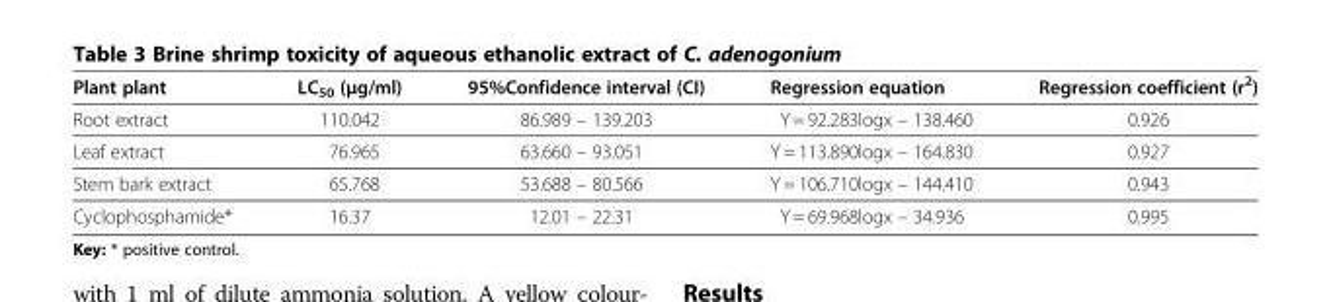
<table><thead><tr><td>Plant plant</td><td>LC<sub>50</sub> (μg/ml)</td><td>95%Confidence interval (CI)</td><td>Regression equation</td><td>Regression coefficient (r<sup>2</sup>)</td></tr></thead><tbody><tr><td>Root extract</td><td>110.042</td><td>86.989 – 139.203</td><td>Y = 92.283logx – 138.460</td><td>0.926</td></tr><tr><td>Leaf extract</td><td>76.965</td><td>63.660 – 93.051</td><td>Y = 113.890logx – 164.830</td><td>0.927</td></tr><tr><td>Stem bark extract</td><td>65.768</td><td>53.688 – 80.566</td><td>Y = 106.710logx – 144.410</td><td>0.943</td></tr><tr><td>Cyclophosphamide*</td><td>16.37</td><td>12.01 – 22.31</td><td>Y = 69.968logx – 34.936</td><td>0.995</td></tr></tbody></table>